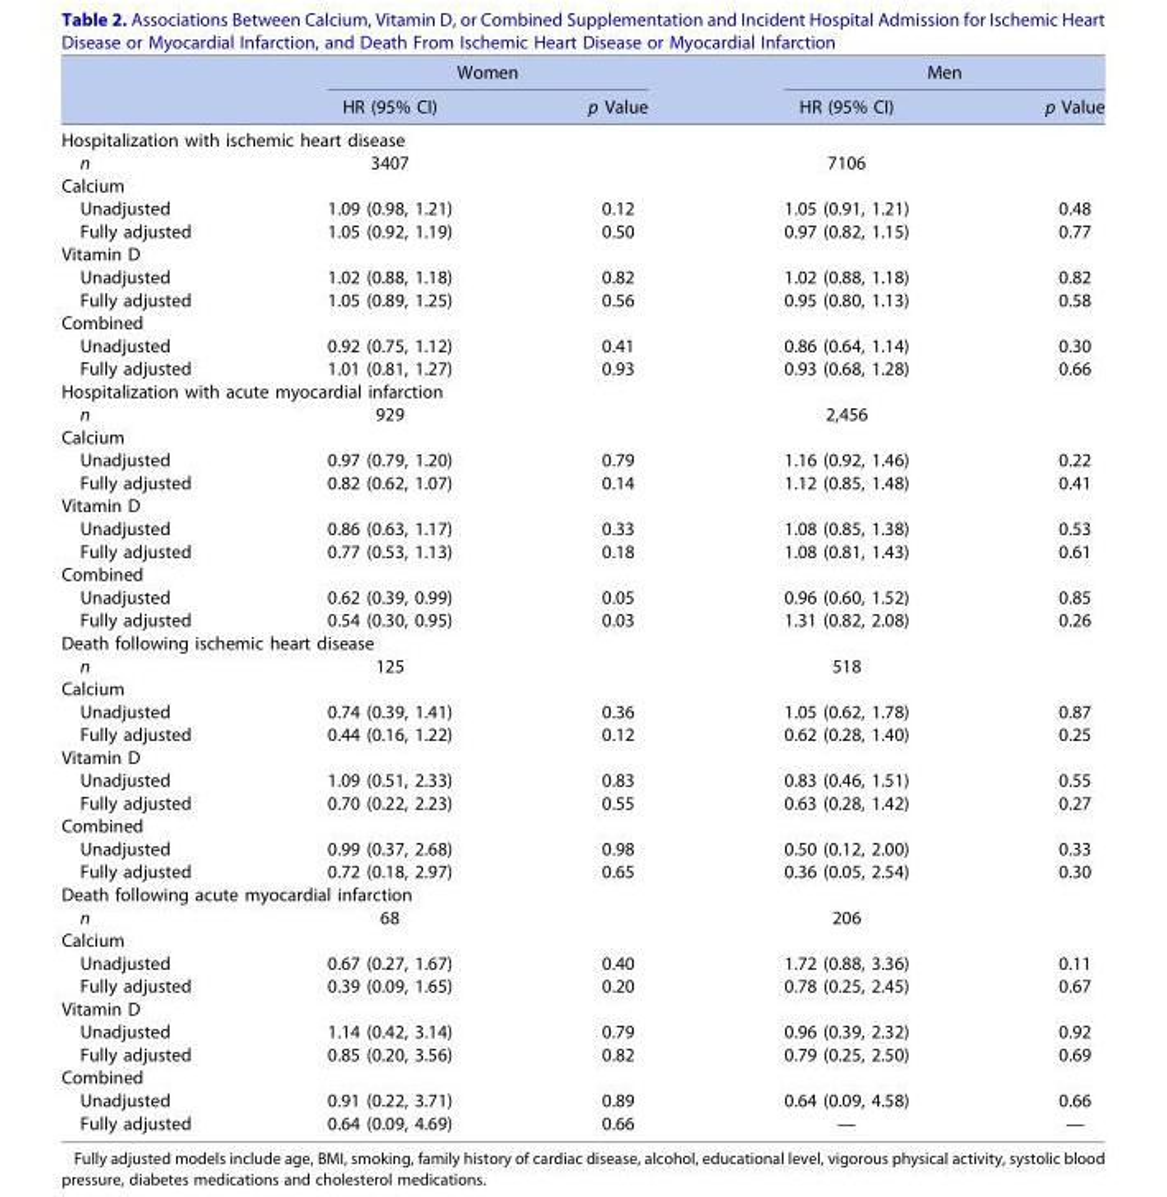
<table><thead><tr><td rowspan="2"></td><td colspan="2">Women</td><td colspan="2">Men</td></tr><tr><td>HR (95% CI)</td><td>p Value</td><td>HR (95% CI)</td><td>p Value</td></tr></thead><tbody><tr><td colspan="5">Hospitalization with ischemic heart disease</td></tr><tr><td>n</td><td>3407</td><td></td><td>7106</td><td></td></tr><tr><td colspan="5">Calcium</td></tr><tr><td>Unadjusted</td><td>1.09 (0.98, 1.21)</td><td>0.12</td><td>1.05 (0.91, 1.21)</td><td>0.48</td></tr><tr><td>Fully adjusted</td><td>1.05 (0.92, 1.19)</td><td>0.50</td><td>0.97 (0.82, 1.15)</td><td>0.77</td></tr><tr><td colspan="5">Vitamin D</td></tr><tr><td>Unadjusted</td><td>1.02 (0.88, 1.18)</td><td>0.82</td><td>1.02 (0.88, 1.18)</td><td>0.82</td></tr><tr><td>Fully adjusted</td><td>1.05 (0.89, 1.25)</td><td>0.56</td><td>0.95 (0.80, 1.13)</td><td>0.58</td></tr><tr><td colspan="5">Combined</td></tr><tr><td>Unadjusted</td><td>0.92 (0.75, 1.12)</td><td>0.41</td><td>0.86 (0.64, 1.14)</td><td>0.30</td></tr><tr><td>Fully adjusted</td><td>1.01 (0.81, 1.27)</td><td>0.93</td><td>0.93 (0.68, 1.28)</td><td>0.66</td></tr><tr><td colspan="5">Hospitalization with acute myocardial infarction</td></tr><tr><td>n</td><td>929</td><td></td><td>2,456</td><td></td></tr><tr><td colspan="5">Calcium</td></tr><tr><td>Unadjusted</td><td>0.97 (0.79, 1.20)</td><td>0.79</td><td>1.16 (0.92, 1.46)</td><td>0.22</td></tr><tr><td>Fully adjusted</td><td>0.82 (0.62, 1.07)</td><td>0.14</td><td>1.12 (0.85, 1.48)</td><td>0.41</td></tr><tr><td colspan="5">Vitamin D</td></tr><tr><td>Unadjusted</td><td>0.86 (0.63, 1.17)</td><td>0.33</td><td>1.08 (0.85, 1.38)</td><td>0.53</td></tr><tr><td>Fully adjusted</td><td>0.77 (0.53, 1.13)</td><td>0.18</td><td>1.08 (0.81, 1.43)</td><td>0.61</td></tr><tr><td colspan="5">Combined</td></tr><tr><td>Unadjusted</td><td>0.62 (0.39, 0.99)</td><td>0.05</td><td>0.96 (0.60, 1.52)</td><td>0.85</td></tr><tr><td>Fully adjusted</td><td>0.54 (0.30, 0.95)</td><td>0.03</td><td>1.31 (0.82, 2.08)</td><td>0.26</td></tr><tr><td colspan="5">Death following ischemic heart disease</td></tr><tr><td>n</td><td>125</td><td></td><td>518</td><td></td></tr><tr><td colspan="5">Calcium</td></tr><tr><td>Unadjusted</td><td>0.74 (0.39, 1.41)</td><td>0.36</td><td>1.05 (0.62, 1.78)</td><td>0.87</td></tr><tr><td>Fully adjusted</td><td>0.44 (0.16, 1.22)</td><td>0.12</td><td>0.62 (0.28, 1.40)</td><td>0.25</td></tr><tr><td colspan="5">Vitamin D</td></tr><tr><td>Unadjusted</td><td>1.09 (0.51, 2.33)</td><td>0.83</td><td>0.83 (0.46, 1.51)</td><td>0.55</td></tr><tr><td>Fully adjusted</td><td>0.70 (0.22, 2.23)</td><td>0.55</td><td>0.63 (0.28, 1.42)</td><td>0.27</td></tr><tr><td colspan="5">Combined</td></tr><tr><td>Unadjusted</td><td>0.99 (0.37, 2.68)</td><td>0.98</td><td>0.50 (0.12, 2.00)</td><td>0.33</td></tr><tr><td>Fully adjusted</td><td>0.72 (0.18, 2.97)</td><td>0.65</td><td>0.36 (0.05, 2.54)</td><td>0.30</td></tr><tr><td colspan="5">Death following acute myocardial infarction</td></tr><tr><td>n</td><td>68</td><td></td><td>206</td><td></td></tr><tr><td colspan="5">Calcium</td></tr><tr><td>Unadjusted</td><td>0.67 (0.27, 1.67)</td><td>0.40</td><td>1.72 (0.88, 3.36)</td><td>0.11</td></tr><tr><td>Fully adjusted</td><td>0.39 (0.09, 1.65)</td><td>0.20</td><td>0.78 (0.25, 2.45)</td><td>0.67</td></tr><tr><td colspan="5">Vitamin D</td></tr><tr><td>Unadjusted</td><td>1.14 (0.42, 3.14)</td><td>0.79</td><td>0.96 (0.39, 2.32)</td><td>0.92</td></tr><tr><td>Fully adjusted</td><td>0.85 (0.20, 3.56)</td><td>0.82</td><td>0.79 (0.25, 2.50)</td><td>0.69</td></tr><tr><td colspan="5">Combined</td></tr><tr><td>Unadjusted</td><td>0.91 (0.22, 3.71)</td><td>0.89</td><td>0.64 (0.09, 4.58)</td><td>0.66</td></tr><tr><td>Fully adjusted</td><td>0.64 (0.09, 4.69)</td><td>0.66</td><td>—</td><td>—</td></tr></tbody></table>